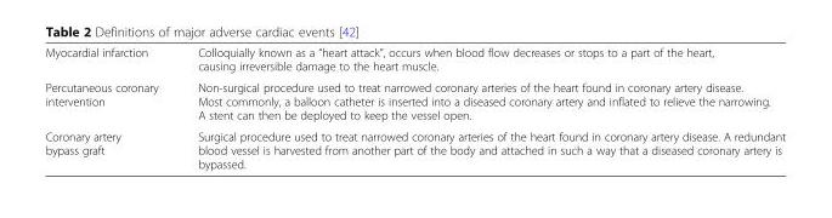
<table><tbody><tr><td>Myocardial infarction</td><td>Colloquially known as a “heart attack”, occurs when blood flow decreases or stops to a part of the heart, causing irreversible damage to the heart muscle.</td></tr><tr><td>Percutaneous coronary intervention</td><td>Non-surgical procedure used to treat narrowed coronary arteries of the heart found in coronary artery disease. Most commonly, a balloon catheter is inserted into a diseased coronary artery and inflated to relieve the narrowing. A stent can then be deployed to keep the vessel open.</td></tr><tr><td>Coronary artery bypass graft</td><td>Surgical procedure used to treat narrowed coronary arteries of the heart found in coronary artery disease. A redundant blood vessel is harvested from another part of the body and attached in such a way that a diseased coronary artery is bypassed.</td></tr></tbody></table>